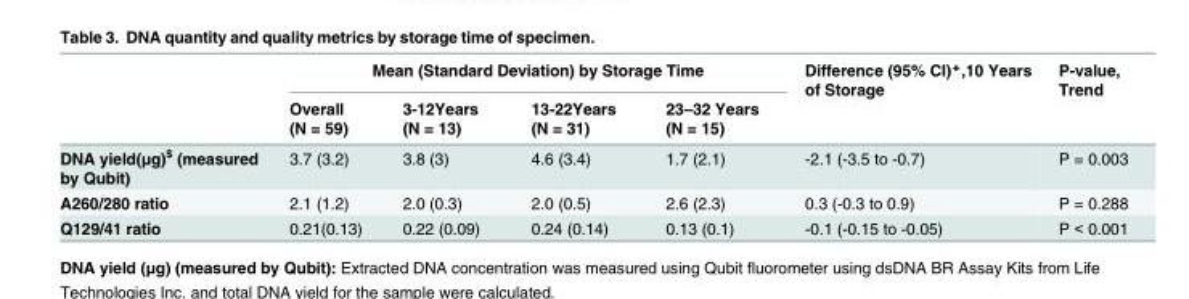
<table><thead><tr><td rowspan="2"></td><td colspan="4">Mean (Standard Deviation) by Storage Time</td><td rowspan="2">Difference (95% CI)*,10 Years of Storage</td><td rowspan="2">P-value, Trend</td></tr><tr><td>Overall (N = 59)</td><td>3-12Years (N = 13)</td><td>13-22Years (N = 31)</td><td>23–32 Years (N = 15)</td></tr></thead><tbody><tr><td>DNA yield(μg)<sup>$</sup> (measured by Qubit)</td><td>3.7 (3.2)</td><td>3.8 (3)</td><td>4.6 (3.4)</td><td>1.7 (2.1)</td><td>-2.1 (-3.5 to -0.7)</td><td>P = 0.003</td></tr><tr><td>A260/280 ratio</td><td>2.1 (1.2)</td><td>2.0 (0.3)</td><td>2.0 (0.5)</td><td>2.6 (2.3)</td><td>0.3 (-0.3 to 0.9)</td><td>P = 0.288</td></tr><tr><td>Q129/41 ratio</td><td>0.21(0.13)</td><td>0.22 (0.09)</td><td>0.24 (0.14)</td><td>0.13 (0.1)</td><td>-0.1 (-0.15 to -0.05)</td><td>P &lt; 0.001</td></tr></tbody></table>